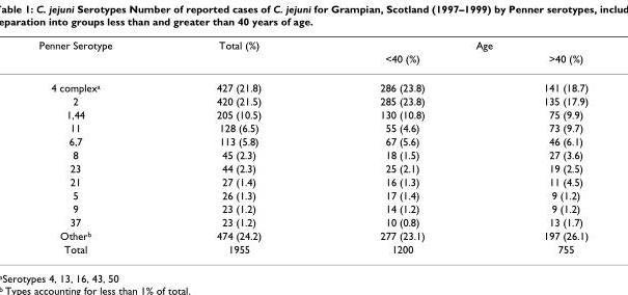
<table><thead><tr><td rowspan="2">Penner Serotype</td><td rowspan="2">Total (%)</td><td colspan="2">Age</td></tr><tr><td>&lt;40 (%)</td><td>&gt;40 (%)</td></tr></thead><tbody><tr><td>4 complex<sup>a</sup></td><td>427 (21.8)</td><td>286 (23.8)</td><td>141 (18.7)</td></tr><tr><td>2</td><td>420 (21.5)</td><td>285 (23.8)</td><td>135 (17.9)</td></tr><tr><td>1,44</td><td>205 (10.5)</td><td>130 (10.8)</td><td>75 (9.9)</td></tr><tr><td>11</td><td>128 (6.5)</td><td>55 (4.6)</td><td>73 (9.7)</td></tr><tr><td>6,7</td><td>113 (5.8)</td><td>67 (5.6)</td><td>46 (6.1)</td></tr><tr><td>8</td><td>45 (2.3)</td><td>18 (1.5)</td><td>27 (3.6)</td></tr><tr><td>23</td><td>44 (2.3)</td><td>25 (2.1)</td><td>19 (2.5)</td></tr><tr><td>21</td><td>27 (1.4)</td><td>16 (1.3)</td><td>11 (4.5)</td></tr><tr><td>5</td><td>26 (1.3)</td><td>17 (1.4)</td><td>9 (1.2)</td></tr><tr><td>9</td><td>23 (1.2)</td><td>14 (1.2)</td><td>9 (1.2)</td></tr><tr><td>37</td><td>23 (1.2)</td><td>10 (0.8)</td><td>13 (1.7)</td></tr><tr><td>Other<sup>b</sup></td><td>474 (24.2)</td><td>277 (23.1)</td><td>197 (26.1)</td></tr><tr><td>Total</td><td>1955</td><td>1200</td><td>755</td></tr></tbody></table>